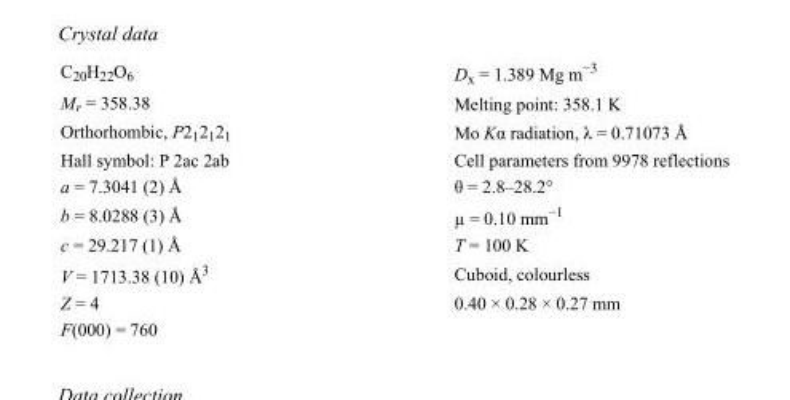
<table><tbody><tr><td>C<sub>20</sub>H<sub>22</sub>O<sub>6</sub></td><td>D<sub>x</sub> = 1.389 Mg m<sup>−3</sup></td></tr><tr><td>M<sub>r</sub> = 358.38</td><td>Melting point: 358.1 K</td></tr><tr><td>Orthorhombic, P2<sub>1</sub>2<sub>1</sub>2<sub>1</sub></td><td>Mo Kα radiation, λ = 0.71073 Å</td></tr><tr><td>Hall symbol: P 2ac 2ab</td><td>Cell parameters from 9978 reflections</td></tr><tr><td>a = 7.3041 (2) Å</td><td>θ = 2.8–28.2°</td></tr><tr><td>b = 8.0288 (3) Å</td><td>µ = 0.10 mm<sup>−1</sup></td></tr><tr><td>c = 29.217 (1) Å</td><td>T = 100 K</td></tr><tr><td>V = 1713.38 (10) Å<sup>3</sup></td><td>Cuboid, colourless</td></tr><tr><td>Z = 4</td><td>0.40 × 0.28 × 0.27 mm</td></tr><tr><td>F(000) = 760</td><td></td></tr></tbody></table>